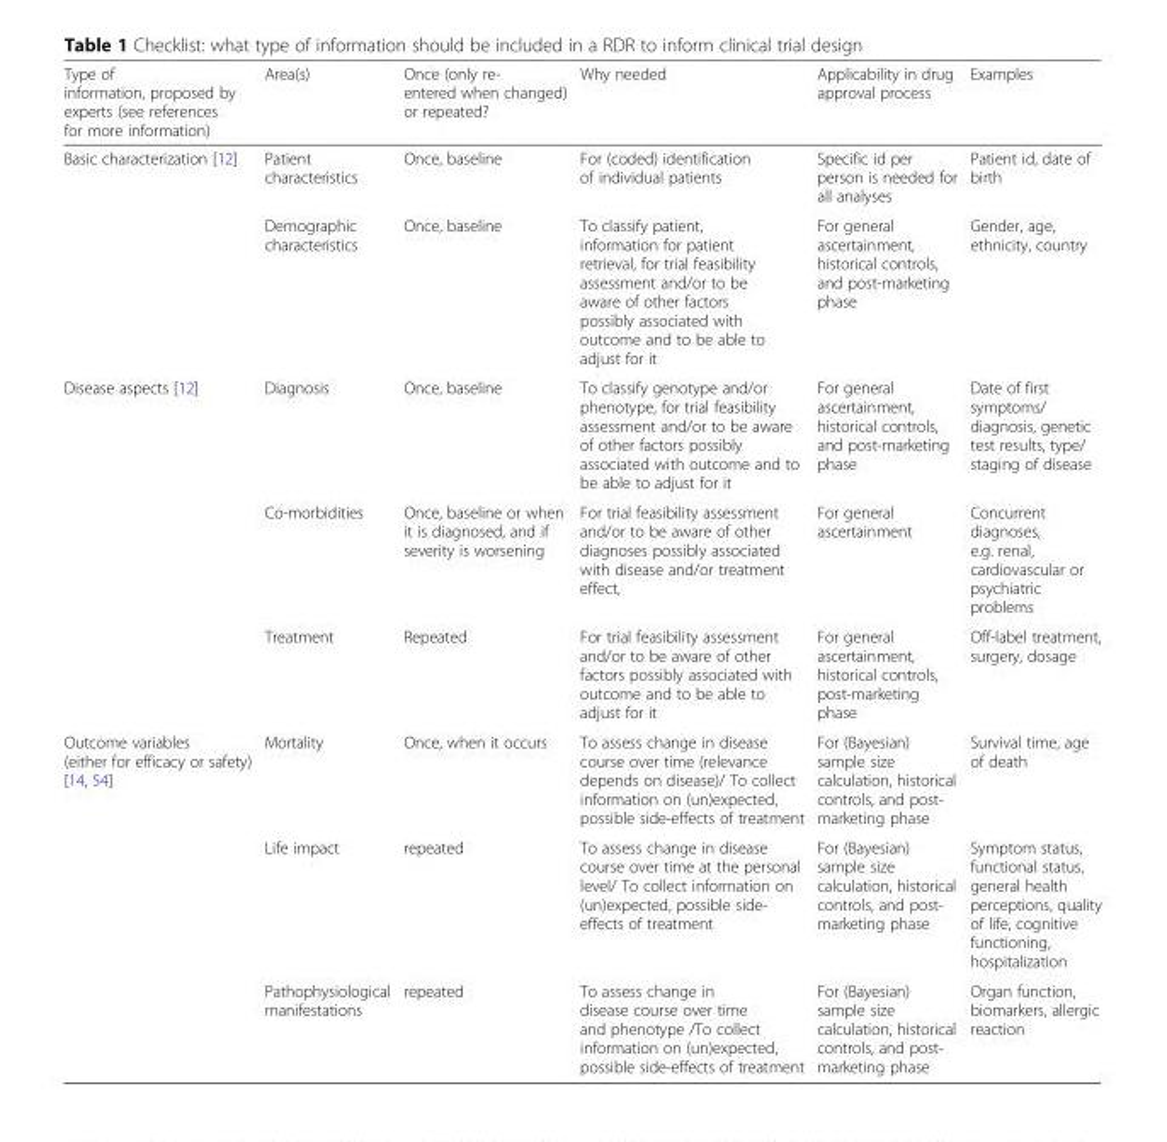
<table><thead><tr><td>Type of information, proposed by experts (see references for more information)</td><td>Area(s)</td><td>Once (only re- entered when changed) or repeated?</td><td>Why needed</td><td>Applicability in drug approval process</td><td>Examples</td></tr></thead><tbody><tr><td rowspan="2">Basic characterization [12]</td><td>Patient characteristics</td><td>Once, baseline</td><td>For (coded) identification of individual patients</td><td>Specific id per person is needed for all analyses</td><td>Patient id, date of birth</td></tr><tr><td>Demographic characteristics</td><td>Once, baseline</td><td>To classify patient, information for patient retrieval, for trial feasibility assessment and/or to be aware of other factors possibly associated with outcome and to be able to adjust for it</td><td>For general ascertainment, historical controls, and post-marketing phase</td><td>Gender, age, ethnicity, country</td></tr><tr><td rowspan="3">Disease aspects [12]</td><td>Diagnosis</td><td>Once, baseline</td><td>To classify genotype and/or phenotype, for trial feasibility assessment and/or to be aware of other factors possibly associated with outcome and to be able to adjust for it</td><td>For general ascertainment, historical controls, and post-marketing phase</td><td>Date of first symptoms/ diagnosis, genetic test results, type/ staging of disease</td></tr><tr><td>Co-morbidities</td><td>Once, baseline or when it is diagnosed, and if severity is worsening</td><td>For trial feasibility assessment and/or to be aware of other diagnoses possibly associated with disease and/or treatment effect,</td><td>For general ascertainment</td><td>Concurrent diagnoses, e.g. renal, cardiovascular or psychiatric problems</td></tr><tr><td>Treatment</td><td>Repeated</td><td>For trial feasibility assessment and/or to be aware of other factors possibly associated with outcome and to be able to adjust for it</td><td>For general ascertainment, historical controls, post-marketing phase</td><td>Off-label treatment, surgery, dosage</td></tr><tr><td rowspan="3">Outcome variables (either for efficacy or safety) [14, 54]</td><td>Mortality</td><td>Once, when it occurs</td><td>To assess change in disease course over time (relevance depends on disease)/ To collect information on (un)expected, possible side-effects of treatment</td><td>For (Bayesian) sample size calculation, historical controls, and post- marketing phase</td><td>Survival time, age of death</td></tr><tr><td>Life impact</td><td>repeated</td><td>To assess change in disease course over time at the personal level/ To collect information on (un)expected, possible side- effects of treatment</td><td>For (Bayesian) sample size calculation, historical controls, and post- marketing phase</td><td>Symptom status, functional status, general health perceptions, quality of life, cognitive functioning, hospitalization</td></tr><tr><td>Pathophysiological manifestations</td><td>repeated</td><td>To assess change in disease course over time and phenotype /To collect information on (un)expected, possible side-effects of treatment</td><td>For (Bayesian) sample size calculation, historical controls, and post- marketing phase</td><td>Organ function, biomarkers, allergic reaction</td></tr></tbody></table>